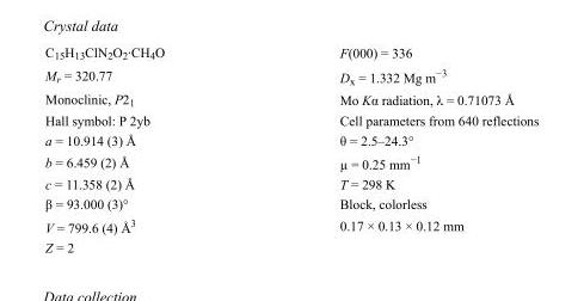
<table><tbody><tr><td>C<sub>15</sub>H<sub>13</sub>ClN<sub>2</sub>O<sub>2</sub>·CH<sub>4</sub>O</td><td>F(000) = 336</td></tr><tr><td>M<sub>r</sub> = 320.77</td><td>D<sub>x</sub> = 1.332 Mg m<sup>−3</sup></td></tr><tr><td>Monoclinic, P2<sub>1</sub></td><td>Mo Kα radiation, λ = 0.71073 Å</td></tr><tr><td>Hall symbol: P 2yb</td><td>Cell parameters from 640 reflections</td></tr><tr><td>a = 10.914 (3) Å</td><td>θ = 2.5–24.3°</td></tr><tr><td>b = 6.459 (2) Å</td><td>µ = 0.25 mm<sup>−1</sup></td></tr><tr><td>c = 11.358 (2) Å</td><td>T = 298 K</td></tr><tr><td>β = 93.000 (3)°</td><td>Block, colorless</td></tr><tr><td>V = 799.6 (4) Å<sup>3</sup></td><td>0.17 × 0.13 × 0.12 mm</td></tr><tr><td>Z = 2</td><td></td></tr></tbody></table>